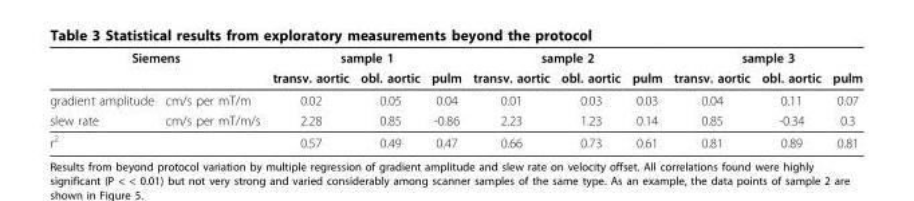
<table><thead><tr><td colspan="2">Siemens</td><td colspan="3">sample 1</td><td colspan="3">sample 2</td><td colspan="3">sample 3</td></tr><tr><td></td><td></td><td>transv. aortic</td><td>obl. aortic</td><td>pulm</td><td>transv. aortic</td><td>obl. aortic</td><td>pulm</td><td>transv. aortic</td><td>obl. aortic</td><td>pulm</td></tr></thead><tbody><tr><td>gradient amplitude</td><td>cm/s per mT/m</td><td>0.02</td><td>0.05</td><td>0.04</td><td>0.01</td><td>0.03</td><td>0.03</td><td>0.04</td><td>0.11</td><td>0.07</td></tr><tr><td>slew rate</td><td>cm/s per mT/m/s</td><td>2.28</td><td>0.85</td><td>-0.86</td><td>2.23</td><td>1.23</td><td>0.14</td><td>0.85</td><td>-0.34</td><td>0.3</td></tr><tr><td>r<sup>2</sup></td><td></td><td>0.57</td><td>0.49</td><td>0.47</td><td>0.66</td><td>0.73</td><td>0.61</td><td>0.81</td><td>0.89</td><td>0.81</td></tr></tbody></table>